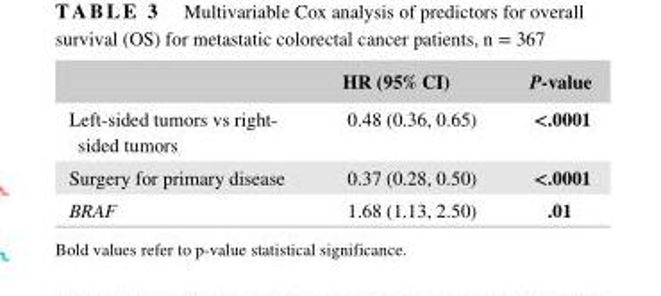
<table><thead><tr><td></td><td>HR (95% CI)</td><td>P- value</td></tr></thead><tbody><tr><td>Left- sided tumors vs right- sided tumors</td><td>0.48 (0.36, 0.65)</td><td>&lt;.0001</td></tr><tr><td>Surgery for primary disease</td><td>0.37 (0.28, 0.50)</td><td>&lt;.0001</td></tr><tr><td>BRAF</td><td>1.68 (1.13, 2.50)</td><td>.01</td></tr></tbody></table>